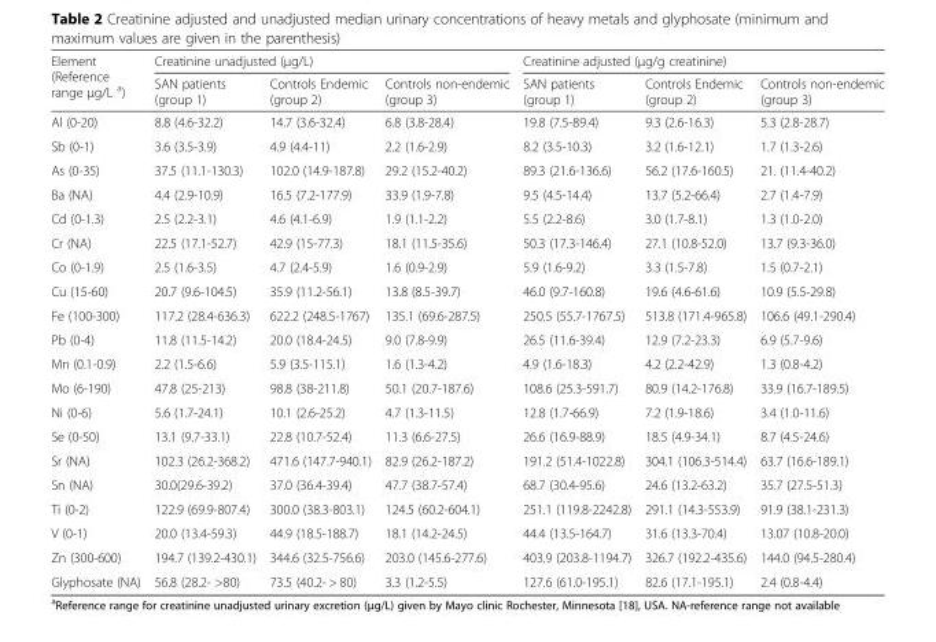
<table><thead><tr><td rowspan="2">Element (Reference range μg/L <sup>a</sup>)</td><td colspan="3">Creatinine unadjusted (μg/L)</td><td colspan="3">Creatinine adjusted (μg/g creatinine)</td></tr><tr><td>SAN patients (group 1)</td><td>Controls Endemic (group 2)</td><td>Controls non-endemic (group 3)</td><td>SAN patients (group 1)</td><td>Controls Endemic (group 2)</td><td>Controls non-endemic (group 3)</td></tr></thead><tbody><tr><td>Al (0-20)</td><td>8.8 (4.6-32.2)</td><td>14.7 (3.6-32.4)</td><td>6.8 (3.8-28.4)</td><td>19.8 (7.5-89.4)</td><td>9.3 (2.6-16.3)</td><td>5.3 (2.8-28.7)</td></tr><tr><td>Sb (0-1)</td><td>3.6 (3.5-3.9)</td><td>4.9 (4.4-11)</td><td>2.2 (1.6-2.9)</td><td>8.2 (3.5-10.3)</td><td>3.2 (1.6-12.1)</td><td>1.7 (1.3-2.6)</td></tr><tr><td>As (0-35)</td><td>37.5 (11.1-130.3)</td><td>102.0 (14.9-187.8)</td><td>29.2 (15.2-40.2)</td><td>89.3 (21.6-136.6)</td><td>56.2 (17.6-160.5)</td><td>21. (11.4-40.2)</td></tr><tr><td>Ba (NA)</td><td>4.4 (2.9-10.9)</td><td>16.5 (7.2-177.9)</td><td>33.9 (1.9-7.8)</td><td>9.5 (4.5-14.4)</td><td>13.7 (5.2-66.4)</td><td>2.7 (1.4-7.9)</td></tr><tr><td>Cd (0-1.3)</td><td>2.5 (2.2-3.1)</td><td>4.6 (4.1-6.9)</td><td>1.9 (1.1-2.2)</td><td>5.5 (2.2-8.6)</td><td>3.0 (1.7-8.1)</td><td>1.3 (1.0-2.0)</td></tr><tr><td>Cr (NA)</td><td>22.5 (17.1-52.7)</td><td>42.9 (15-77.3)</td><td>18.1 (11.5-35.6)</td><td>50.3 (17.3-146.4)</td><td>27.1 (10.8-52.0)</td><td>13.7 (9.3-36.0)</td></tr><tr><td>Co (0-1.9)</td><td>2.5 (1.6-3.5)</td><td>4.7 (2.4-5.9)</td><td>1.6 (0.9-2.9)</td><td>5.9 (1.6-9.2)</td><td>3.3 (1.5-7.8)</td><td>1.5 (0.7-2.1)</td></tr><tr><td>Cu (15-60)</td><td>20.7 (9.6-104.5)</td><td>35.9 (11.2-56.1)</td><td>13.8 (8.5-39.7)</td><td>46.0 (9.7-160.8)</td><td>19.6 (4.6-61.6)</td><td>10.9 (5.5-29.8)</td></tr><tr><td>Fe (100-300)</td><td>117.2 (28.4-636.3)</td><td>622.2 (248.5-1767)</td><td>135.1 (69.6-287.5)</td><td>250.5 (55.7-1767.5)</td><td>513.8 (171.4-965.8)</td><td>106.6 (49.1-290.4)</td></tr><tr><td>Pb (0-4)</td><td>11.8 (11.5-14.2)</td><td>20.0 (18.4-24.5)</td><td>9.0 (7.8-9.9)</td><td>26.5 (11.6-39.4)</td><td>12.9 (7.2-23.3)</td><td>6.9 (5.7-9.6)</td></tr><tr><td>Mn (0.1-0.9)</td><td>2.2 (1.5-6.6)</td><td>5.9 (3.5-115.1)</td><td>1.6 (1.3-4.2)</td><td>4.9 (1.6-18.3)</td><td>4.2 (2.2-42.9)</td><td>1.3 (0.8-4.2)</td></tr><tr><td>Mo (6-190)</td><td>47.8 (25-213)</td><td>98.8 (38-211.8)</td><td>50.1 (20.7-187.6)</td><td>108.6 (25.3-591.7)</td><td>80.9 (14.2-176.8)</td><td>33.9 (16.7-189.5)</td></tr><tr><td>Ni (0-6)</td><td>5.6 (1.7-24.1)</td><td>10.1 (2.6-25.2)</td><td>4.7 (1.3-11.5)</td><td>12.8 (1.7-66.9)</td><td>7.2 (1.9-18.6)</td><td>3.4 (1.0-11.6)</td></tr><tr><td>Se (0-50)</td><td>13.1 (9.7-33.1)</td><td>22.8 (10.7-52.4)</td><td>11.3 (6.6-27.5)</td><td>26.6 (16.9-88.9)</td><td>18.5 (4.9-34.1)</td><td>8.7 (4.5-24.6)</td></tr><tr><td>Sr (NA)</td><td>102.3 (26.2-368.2)</td><td>471.6 (147.7-940.1)</td><td>82.9 (26.2-187.2)</td><td>191.2 (51.4-1022.8)</td><td>304.1 (106.3-514.4)</td><td>63.7 (16.6-189.1)</td></tr><tr><td>Sn (NA)</td><td>30.0(29.6-39.2)</td><td>37.0 (36.4-39.4)</td><td>47.7 (38.7-57.4)</td><td>68.7 (30.4-95.6)</td><td>24.6 (13.2-63.2)</td><td>35.7 (27.5-51.3)</td></tr><tr><td>Ti (0-2)</td><td>122.9 (69.9-807.4)</td><td>300.0 (38.3-803.1)</td><td>124.5 (60.2-604.1)</td><td>251.1 (119.8-2242.8)</td><td>291.1 (14.3-553.9)</td><td>91.9 (38.1-231.3)</td></tr><tr><td>V (0-1)</td><td>20.0 (13.4-59.3)</td><td>44.9 (18.5-188.7)</td><td>18.1 (14.2-24.5)</td><td>44.4 (13.5-164.7)</td><td>31.6 (13.3-70.4)</td><td>13.07 (10.8-20.0)</td></tr><tr><td>Zn (300-600)</td><td>194.7 (139.2-430.1)</td><td>344.6 (32.5-756.6)</td><td>203.0 (145.6-277.6)</td><td>403.9 (203.8-1194.7)</td><td>326.7 (192.2-435.6)</td><td>144.0 (94.5-280.4)</td></tr><tr><td>Glyphosate (NA)</td><td>56.8 (28.2- &gt;80)</td><td>73.5 (40.2- &gt; 80)</td><td>3.3 (1.2-5.5)</td><td>127.6 (61.0-195.1)</td><td>82.6 (17.1-195.1)</td><td>2.4 (0.8-4.4)</td></tr></tbody></table>